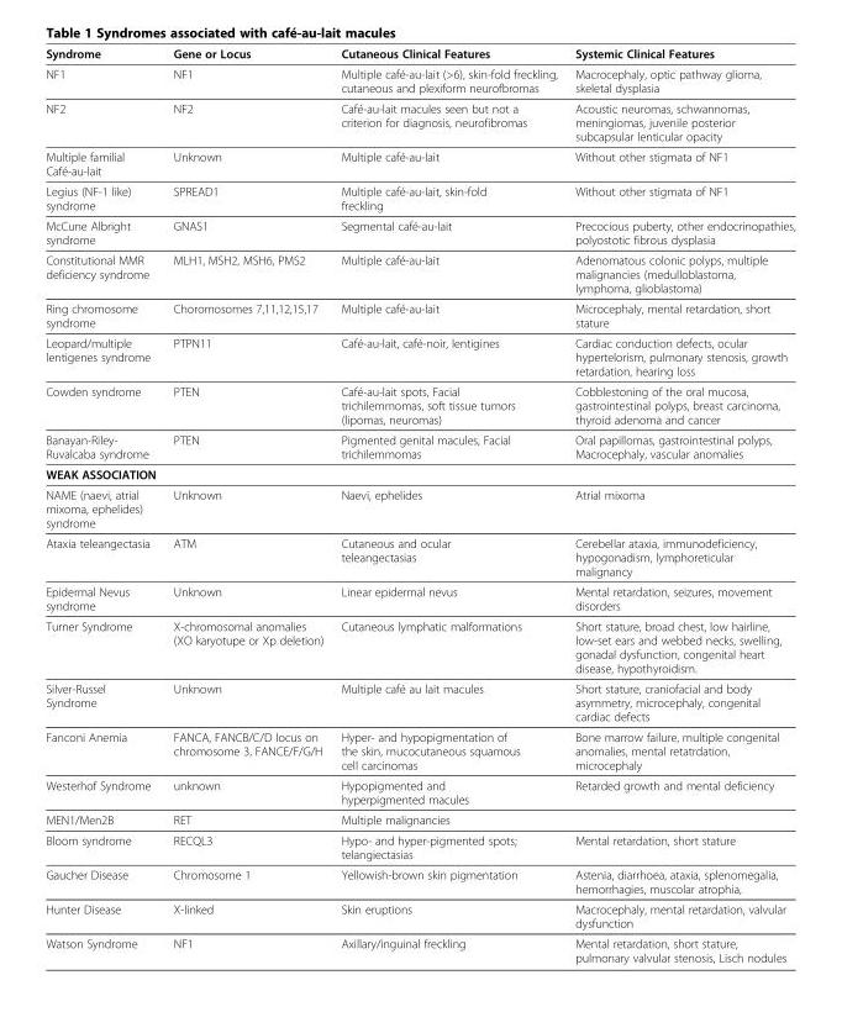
<table><thead><tr><td>Syndrome</td><td>Gene or Locus</td><td>Cutaneous Clinical Features</td><td>Systemic Clinical Features</td></tr></thead><tbody><tr><td>NF1</td><td>NF1</td><td>Multiple café-au-lait (&gt;6), skin-fold freckling, cutaneous and plexiform neurofbromas</td><td>Macrocephaly, optic pathway glioma, skeletal dysplasia</td></tr><tr><td>NF2</td><td>NF2</td><td>Café-au-lait macules seen but not a criterion for diagnosis, neurofibromas</td><td>Acoustic neuromas, schwannomas, meningiomas, juvenile posterior subcapsular lenticular opacity</td></tr><tr><td>Multiple familial Café-au-lait</td><td>Unknown</td><td>Multiple café-au-lait</td><td>Without other stigmata of NF1</td></tr><tr><td>Legius (NF-1 like) syndrome</td><td>SPREAD1</td><td>Multiple café-au-lait, skin-fold freckling</td><td>Without other stigmata of NF1</td></tr><tr><td>McCune Albright syndrome</td><td>GNAS1</td><td>Segmental café-au-lait</td><td>Precocious puberty, other endocrinopathies, polyostotic fibrous dysplasia</td></tr><tr><td>Constitutional MMR deficiency syndrome</td><td>MLH1, MSH2, MSH6, PMS2</td><td>Multiple café-au-lait</td><td>Adenomatous colonic polyps, multiple malignancies (medulloblastoma, lymphoma, glioblastoma)</td></tr><tr><td>Ring chromosome syndrome</td><td>Choromosomes 7,11,12,15,17</td><td>Multiple café-au-lait</td><td>Microcephaly, mental retardation, short stature</td></tr><tr><td>Leopard/multiple lentigenes syndrome</td><td>PTPN11</td><td>Café-au-lait, café-noir, lentigines</td><td>Cardiac conduction defects, ocular hypertelorism, pulmonary stenosis, growth retardation, hearing loss</td></tr><tr><td>Cowden syndrome</td><td>PTEN</td><td>Café-au-lait spots, Facial trichilemmomas, soft tissue tumors (lipomas, neuromas)</td><td>Cobblestoning of the oral mucosa, gastrointestinal polyps, breast carcinoma, thyroid adenoma and cancer</td></tr><tr><td>Banayan-Riley- Ruvalcaba syndrome</td><td>PTEN</td><td>Pigmented genital macules, Facial trichilemmomas</td><td>Oral papillomas, gastrointestinal polyps, Macrocephaly, vascular anomalies</td></tr><tr><td colspan="4">WEAK ASSOCIATION</td></tr><tr><td>NAME (naevi, atrial mixoma, ephelides) syndrome</td><td>Unknown</td><td>Naevi, ephelides</td><td>Atrial mixoma</td></tr><tr><td>Ataxia teleangectasia</td><td>ATM</td><td>Cutaneous and ocular teleangectasias</td><td>Cerebellar ataxia, immunodeficiency, hypogonadism, lymphoreticular malignancy</td></tr><tr><td>Epidermal Nevus syndrome</td><td>Unknown</td><td>Linear epidermal nevus</td><td>Mental retardation, seizures, movement disorders</td></tr><tr><td>Turner Syndrome</td><td>X-chromosomal anomalies (XO karyotupe or Xp deletion)</td><td>Cutaneous lymphatic malformations</td><td>Short stature, broad chest, low hairline, low-set ears and webbed necks, swelling, gonadal dysfunction, congenital heart disease, hypothyroidism.</td></tr><tr><td>Silver-Russel Syndrome</td><td>Unknown</td><td>Multiple café au lait macules</td><td>Short stature, craniofacial and body asymmetry, microcephaly, congenital cardiac defects</td></tr><tr><td>Fanconi Anemia</td><td>FANCA, FANCB/C/D locus on chromosome 3, FANCE/F/G/H</td><td>Hyper- and hypopigmentation of the skin, mucocutaneous squamous cell carcinomas</td><td>Bone marrow failure, multiple congenital anomalies, mental retatrdation, microcephaly</td></tr><tr><td>Westerhof Syndrome</td><td>unknown</td><td>Hypopigmented and hyperpigmented macules</td><td>Retarded growth and mental deficiency</td></tr><tr><td>MEN1/Men2B</td><td>RET</td><td>Multiple malignancies</td><td></td></tr><tr><td>Bloom syndrome</td><td>RECQL3</td><td>Hypo- and hyper-pigmented spots; telangiectasias</td><td>Mental retardation, short stature</td></tr><tr><td>Gaucher Disease</td><td>Chromosome 1</td><td>Yellowish-brown skin pigmentation</td><td>Astenia, diarrhoea, ataxia, splenomegalia, hemorrhagies, muscolar atrophia,</td></tr><tr><td>Hunter Disease</td><td>X-linked</td><td>Skin eruptions</td><td>Macrocephaly, mental retardation, valvular dysfunction</td></tr><tr><td>Watson Syndrome</td><td>NF1</td><td>Axillary/inguinal freckling</td><td>Mental retardation, short stature, pulmonary valvular stenosis, Lisch nodules</td></tr></tbody></table>